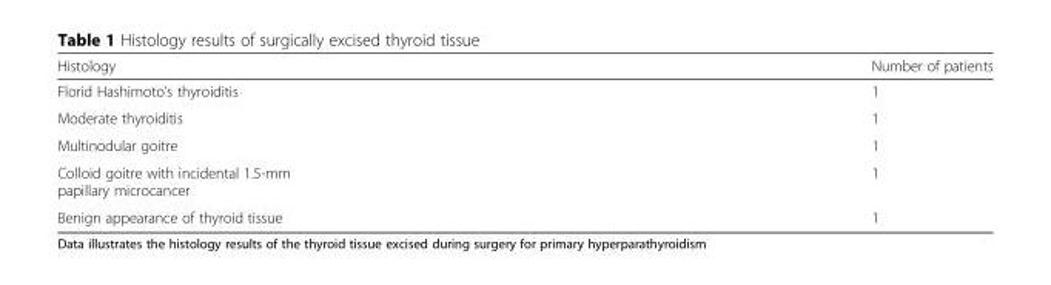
<table><thead><tr><td>Histology</td><td>Number of patients</td></tr></thead><tbody><tr><td>Florid Hashimoto’s thyroiditis</td><td>1</td></tr><tr><td>Moderate thyroiditis</td><td>1</td></tr><tr><td>Multinodular goitre</td><td>1</td></tr><tr><td>Colloid goitre with incidental 1.5-mm papillary microcancer</td><td>1</td></tr><tr><td>Benign appearance of thyroid tissue</td><td>1</td></tr></tbody></table>